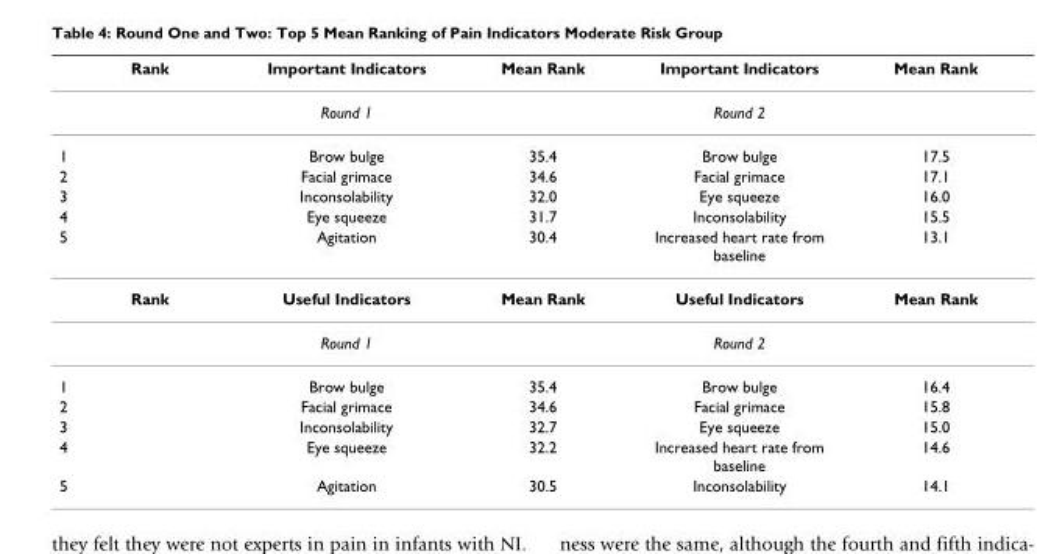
<table><thead><tr><td>Rank</td><td>Important Indicators</td><td>Mean Rank</td><td>Important Indicators</td><td>Mean Rank</td></tr></thead><tbody><tr><td></td><td>Round 1</td><td></td><td>Round 2</td><td></td></tr><tr><td>1</td><td>Brow bulge</td><td>35.4</td><td>Brow bulge</td><td>17.5</td></tr><tr><td>2</td><td>Facial grimace</td><td>34.6</td><td>Facial grimace</td><td>17.1</td></tr><tr><td>3</td><td>Inconsolability</td><td>32.0</td><td>Eye squeeze</td><td>16.0</td></tr><tr><td>4</td><td>Eye squeeze</td><td>31.7</td><td>Inconsolability</td><td>15.5</td></tr><tr><td>5</td><td>Agitation</td><td>30.4</td><td>Increased heart rate from baseline</td><td>13.1</td></tr><tr><td rowspan="2">Rank</td><td>Useful Indicators</td><td>Mean Rank</td><td>Useful Indicators</td><td>Mean Rank</td></tr><tr><td>Round 1</td><td></td><td>Round 2</td><td></td></tr><tr><td>1</td><td>Brow bulge</td><td>35.4</td><td>Brow bulge</td><td>16.4</td></tr><tr><td>2</td><td>Facial grimace</td><td>34.6</td><td>Facial grimace</td><td>15.8</td></tr><tr><td>3</td><td>Inconsolability</td><td>32.7</td><td>Eye squeeze</td><td>15.0</td></tr><tr><td>4</td><td>Eye squeeze</td><td>32.2</td><td>Increased heart rate from baseline</td><td>14.6</td></tr><tr><td>5</td><td>Agitation</td><td>30.5</td><td>Inconsolability</td><td>14.1</td></tr></tbody></table>